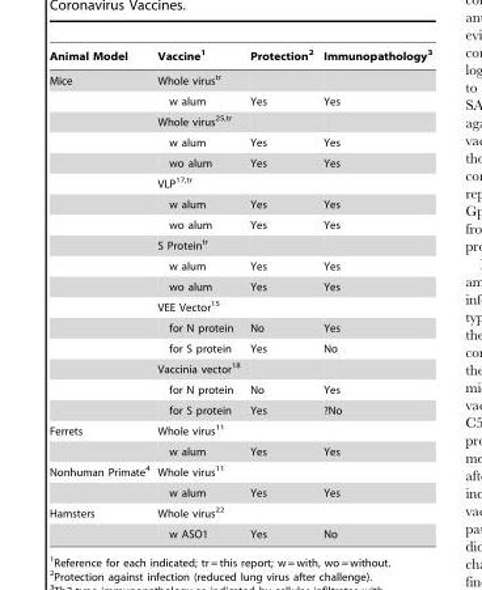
<table><thead><tr><td>Animal Model</td><td>Vaccine<sup>1</sup></td><td>Protection<sup>2</sup></td><td>Immunopathology<sup>3</sup></td></tr></thead><tbody><tr><td rowspan="17">Mice</td><td>Whole virus<sup>tr</sup></td><td></td><td></td></tr><tr><td>w alum</td><td>Yes</td><td>Yes</td></tr><tr><td>Whole virus<sup>25,tr</sup></td><td></td><td></td></tr><tr><td>w alum</td><td>Yes</td><td>Yes</td></tr><tr><td>wo alum</td><td>Yes</td><td>Yes</td></tr><tr><td>VLP<sup>17,tr</sup></td><td></td><td></td></tr><tr><td>w alum</td><td>Yes</td><td>Yes</td></tr><tr><td>wo alum</td><td>Yes</td><td>Yes</td></tr><tr><td>S Protein<sup>tr</sup></td><td></td><td></td></tr><tr><td>w alum</td><td>Yes</td><td>Yes</td></tr><tr><td>wo alum</td><td>Yes</td><td>Yes</td></tr><tr><td>VEE Vector<sup>15</sup></td><td></td><td></td></tr><tr><td>for N protein</td><td>No</td><td>Yes</td></tr><tr><td>for S protein</td><td>Yes</td><td>No</td></tr><tr><td>Vaccinia vector<sup>18</sup></td><td></td><td></td></tr><tr><td>for N protein</td><td>No</td><td>Yes</td></tr><tr><td>for S protein</td><td>Yes</td><td>?No</td></tr><tr><td rowspan="2">Ferrets</td><td>Whole virus<sup>11</sup></td><td></td><td></td></tr><tr><td>w alum</td><td>Yes</td><td>Yes</td></tr><tr><td rowspan="2">Nonhuman Primate<sup>4</sup></td><td>Whole virus<sup>11</sup></td><td></td><td></td></tr><tr><td>w alum</td><td>Yes</td><td>Yes</td></tr><tr><td rowspan="2">Hamsters</td><td>Whole virus<sup>22</sup></td><td></td><td></td></tr><tr><td>w ASO1</td><td>Yes</td><td>No</td></tr></tbody></table>